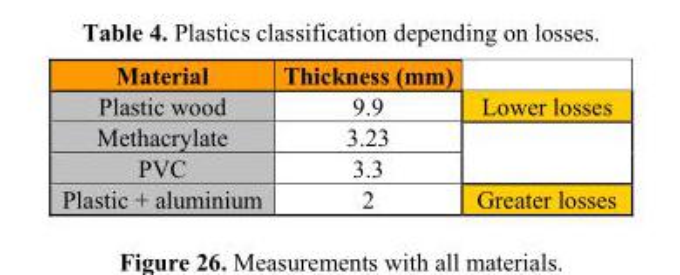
<table><thead><tr><td>Material</td><td>Thickness (mm)</td><td></td></tr></thead><tbody><tr><td>Plastic wood</td><td>9.9</td><td>Lower losses</td></tr><tr><td>Methacrylate</td><td>3.23</td><td rowspan="2"></td></tr><tr><td>PVC</td><td>3.3</td></tr><tr><td>Plastic + aluminium</td><td>2</td><td>Greater losses</td></tr></tbody></table>